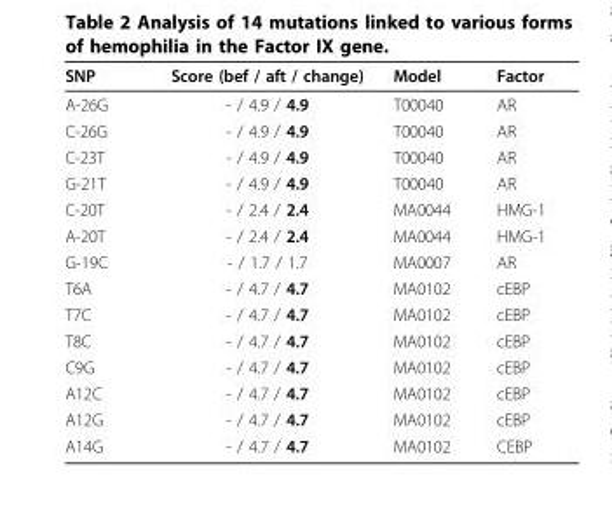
<table><thead><tr><td>SNP</td><td>Score (bef / aft / change)</td><td>Model</td><td>Factor</td></tr></thead><tbody><tr><td>A-26G</td><td>- / 4.9 / 4.9</td><td>T00040</td><td>AR</td></tr><tr><td>C-26G</td><td>- / 4.9 / 4.9</td><td>T00040</td><td>AR</td></tr><tr><td>C-23T</td><td>- / 4.9 / 4.9</td><td>T00040</td><td>AR</td></tr><tr><td>G-21T</td><td>- / 4.9 / 4.9</td><td>T00040</td><td>AR</td></tr><tr><td>C-20T</td><td>- / 2.4 / 2.4</td><td>MA0044</td><td>HMG-1</td></tr><tr><td>A-20T</td><td>- / 2.4 / 2.4</td><td>MA0044</td><td>HMG-1</td></tr><tr><td>G-19C</td><td>- / 1.7 / 1.7</td><td>MA0007</td><td>AR</td></tr><tr><td>T6A</td><td>- / 4.7 / 4.7</td><td>MA0102</td><td>cEBP</td></tr><tr><td>T7C</td><td>- / 4.7 / 4.7</td><td>MA0102</td><td>cEBP</td></tr><tr><td>T8C</td><td>- / 4.7 / 4.7</td><td>MA0102</td><td>cEBP</td></tr><tr><td>C9G</td><td>- / 4.7 / 4.7</td><td>MA0102</td><td>cEBP</td></tr><tr><td>A12C</td><td>- / 4.7 / 4.7</td><td>MA0102</td><td>cEBP</td></tr><tr><td>A12G</td><td>- / 4.7 / 4.7</td><td>MA0102</td><td>cEBP</td></tr><tr><td>A14G</td><td>- / 4.7 / 4.7</td><td>MA0102</td><td>CEBP</td></tr></tbody></table>